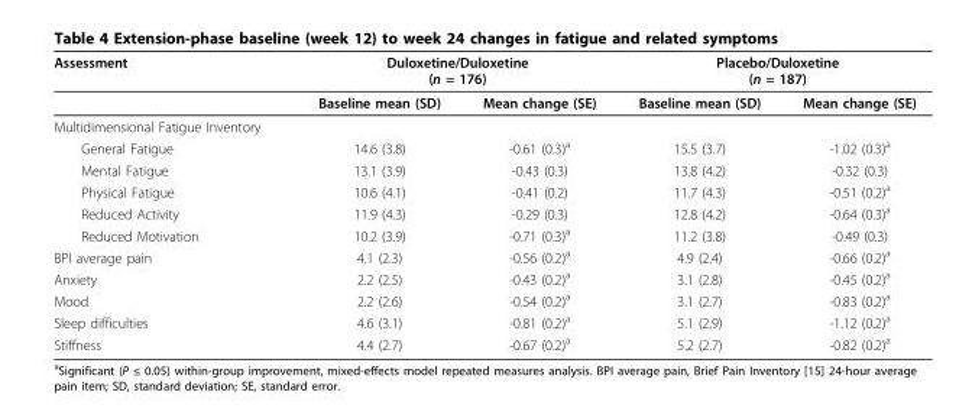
<table><thead><tr><td rowspan="2">Assessment</td><td colspan="2">Duloxetine/Duloxetine (n = 176)</td><td colspan="2">Placebo/Duloxetine (n = 187)</td></tr><tr><td>Baseline mean (SD)</td><td>Mean change (SE)</td><td>Baseline mean (SD)</td><td>Mean change (SE)</td></tr></thead><tbody><tr><td colspan="5">Multidimensional Fatigue Inventory</td></tr><tr><td>General Fatigue</td><td>14.6 (3.8)</td><td>-0.61 (0.3)<sup>a</sup></td><td>15.5 (3.7)</td><td>-1.02 (0.3)<sup>a</sup></td></tr><tr><td>Mental Fatigue</td><td>13.1 (3.9)</td><td>-0.43 (0.3)</td><td>13.8 (4.2)</td><td>-0.32 (0.3)</td></tr><tr><td>Physical Fatigue</td><td>10.6 (4.1)</td><td>-0.41 (0.2)</td><td>11.7 (4.3)</td><td>-0.51 (0.2)<sup>a</sup></td></tr><tr><td>Reduced Activity</td><td>11.9 (4.3)</td><td>-0.29 (0.3)</td><td>12.8 (4.2)</td><td>-0.64 (0.3)<sup>a</sup></td></tr><tr><td>Reduced Motivation</td><td>10.2 (3.9)</td><td>-0.71 (0.3)<sup>a</sup></td><td>11.2 (3.8)</td><td>-0.49 (0.3)</td></tr><tr><td>BPI average pain</td><td>4.1 (2.3)</td><td>-0.56 (0.2)<sup>a</sup></td><td>4.9 (2.4)</td><td>-0.66 (0.2)<sup>a</sup></td></tr><tr><td>Anxiety</td><td>2.2 (2.5)</td><td>-0.43 (0.2)<sup>a</sup></td><td>3.1 (2.8)</td><td>-0.45 (0.2)<sup>a</sup></td></tr><tr><td>Mood</td><td>2.2 (2.6)</td><td>-0.54 (0.2)<sup>a</sup></td><td>3.1 (2.7)</td><td>-0.83 (0.2)<sup>a</sup></td></tr><tr><td>Sleep difficulties</td><td>4.6 (3.1)</td><td>-0.81 (0.2)<sup>a</sup></td><td>5.1 (2.9)</td><td>-1.12 (0.2)<sup>a</sup></td></tr><tr><td>Stiffness</td><td>4.4 (2.7)</td><td>-0.67 (0.2)<sup>a</sup></td><td>5.2 (2.7)</td><td>-0.82 (0.2)<sup>a</sup></td></tr></tbody></table>